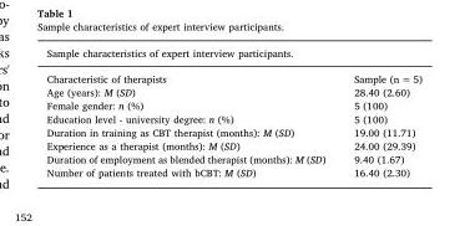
<table><thead><tr><td>Sample characteristics of expert interview participants.</td><td></td></tr></thead><tbody><tr><td>Characteristic of therapists</td><td>Sample (n = 5)</td></tr><tr><td>Age (years): M (SD)</td><td>28.40 (2.60)</td></tr><tr><td>Female gender: n (%)</td><td>5 (100)</td></tr><tr><td>Education level - university degree: n (%)</td><td>5 (100)</td></tr><tr><td>Duration in training as CBT therapist (months): M (SD)</td><td>19.00 (11.71)</td></tr><tr><td>Experience as a therapist (months): M (SD)</td><td>24.00 (29.39)</td></tr><tr><td>Duration of employment as blended therapist (months): M (SD)</td><td>9.40 (1.67)</td></tr><tr><td>Number of patients treated with bCBT: M (SD)</td><td>16.40 (2.30)</td></tr></tbody></table>